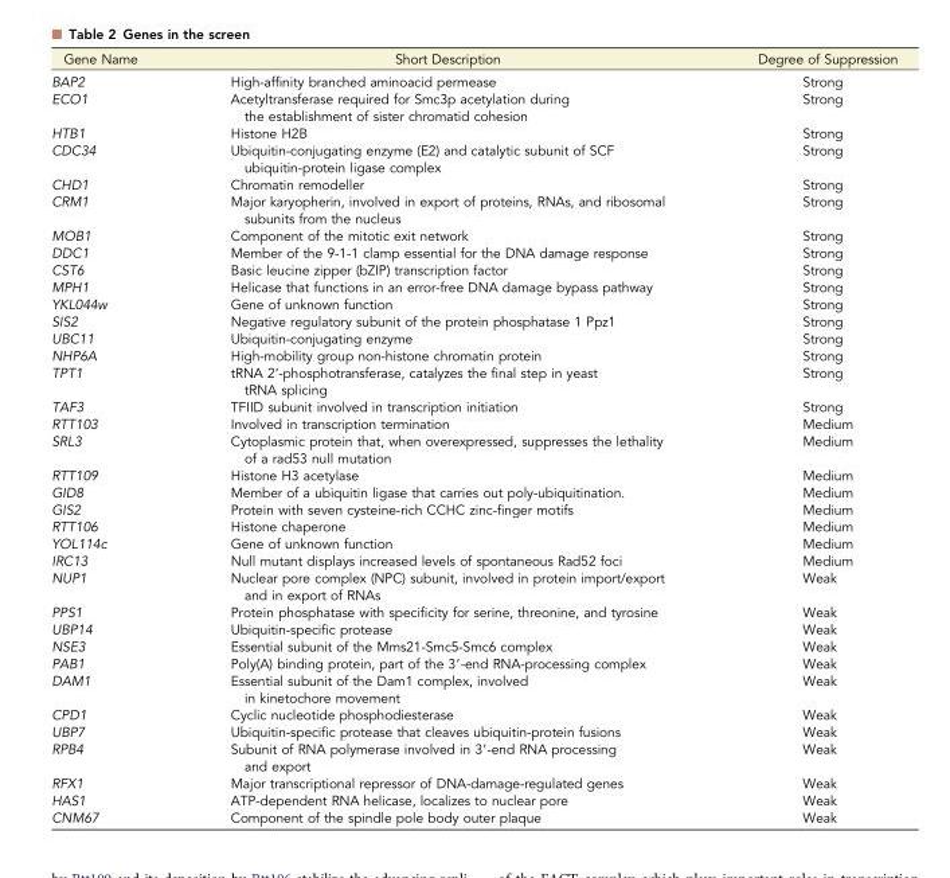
<table><thead><tr><td>Gene Name</td><td>Short Description</td><td>Degree of Suppression</td></tr></thead><tbody><tr><td>BAP2</td><td>High-affinity branched aminoacid permease</td><td>Strong</td></tr><tr><td>ECO1</td><td>Acetyltransferase required for Smc3p acetylation during the establishment of sister chromatid cohesion</td><td>Strong</td></tr><tr><td>HTB1</td><td>Histone H2B</td><td>Strong</td></tr><tr><td>CDC34</td><td>Ubiquitin-conjugating enzyme (E2) and catalytic subunit of SCF ubiquitin-protein ligase complex</td><td>Strong</td></tr><tr><td>CHD1</td><td>Chromatin remodeller</td><td>Strong</td></tr><tr><td>CRM1</td><td>Major karyopherin, involved in export of proteins, RNAs, and ribosomal subunits from the nucleus</td><td>Strong</td></tr><tr><td>MOB1</td><td>Component of the mitotic exit network</td><td>Strong</td></tr><tr><td>DDC1</td><td>Member of the 9-1-1 clamp essential for the DNA damage response</td><td>Strong</td></tr><tr><td>CST6</td><td>Basic leucine zipper (bZIP) transcription factor</td><td>Strong</td></tr><tr><td>MPH1</td><td>Helicase that functions in an error-free DNA damage bypass pathway</td><td>Strong</td></tr><tr><td>YKL044w</td><td>Gene of unknown function</td><td>Strong</td></tr><tr><td>SIS2</td><td>Negative regulatory subunit of the protein phosphatase 1 Ppz1</td><td>Strong</td></tr><tr><td>UBC11</td><td>Ubiquitin-conjugating enzyme</td><td>Strong</td></tr><tr><td>NHP6A</td><td>High-mobility group non-histone chromatin protein</td><td>Strong</td></tr><tr><td>TPT1</td><td>tRNA 2’-phosphotransferase, catalyzes the final step in yeast tRNA splicing</td><td>Strong</td></tr><tr><td>TAF3</td><td>TFIID subunit involved in transcription initiation</td><td>Strong</td></tr><tr><td>RTT103</td><td>Involved in transcription termination</td><td>Medium</td></tr><tr><td>SRL3</td><td>Cytoplasmic protein that, when overexpressed, suppresses the lethality of a rad53 null mutation</td><td>Medium</td></tr><tr><td>RTT109</td><td>Histone H3 acetylase</td><td>Medium</td></tr><tr><td>GID8</td><td>Member of a ubiquitin ligase that carries out poly-ubiquitination.</td><td>Medium</td></tr><tr><td>GIS2</td><td>Protein with seven cysteine-rich CCHC zinc-finger motifs</td><td>Medium</td></tr><tr><td>RTT106</td><td>Histone chaperone</td><td>Medium</td></tr><tr><td>YOL114c</td><td>Gene of unknown function</td><td>Medium</td></tr><tr><td>IRC13</td><td>Null mutant displays increased levels of spontaneous Rad52 foci</td><td>Medium</td></tr><tr><td>NUP1</td><td>Nuclear pore complex (NPC) subunit, involved in protein import/export and in export of RNAs</td><td>Weak</td></tr><tr><td>PPS1</td><td>Protein phosphatase with specificity for serine, threonine, and tyrosine</td><td>Weak</td></tr><tr><td>UBP14</td><td>Ubiquitin-specific protease</td><td>Weak</td></tr><tr><td>NSE3</td><td>Essential subunit of the Mms21-Smc5-Smc6 complex</td><td>Weak</td></tr><tr><td>PAB1</td><td>Poly(A) binding protein, part of the 3′-end RNA-processing complex</td><td>Weak</td></tr><tr><td>DAM1</td><td>Essential subunit of the Dam1 complex, involved in kinetochore movement</td><td>Weak</td></tr><tr><td>CPD1</td><td>Cyclic nucleotide phosphodiesterase</td><td>Weak</td></tr><tr><td>UBP7</td><td>Ubiquitin-specific protease that cleaves ubiquitin-protein fusions</td><td>Weak</td></tr><tr><td>RPB4</td><td>Subunit of RNA polymerase involved in 3′-end RNA processing and export</td><td>Weak</td></tr><tr><td>RFX1</td><td>Major transcriptional repressor of DNA-damage-regulated genes</td><td>Weak</td></tr><tr><td>HAS1</td><td>ATP-dependent RNA helicase, localizes to nuclear pore</td><td>Weak</td></tr><tr><td>CNM67</td><td>Component of the spindle pole body outer plaque</td><td>Weak</td></tr></tbody></table>